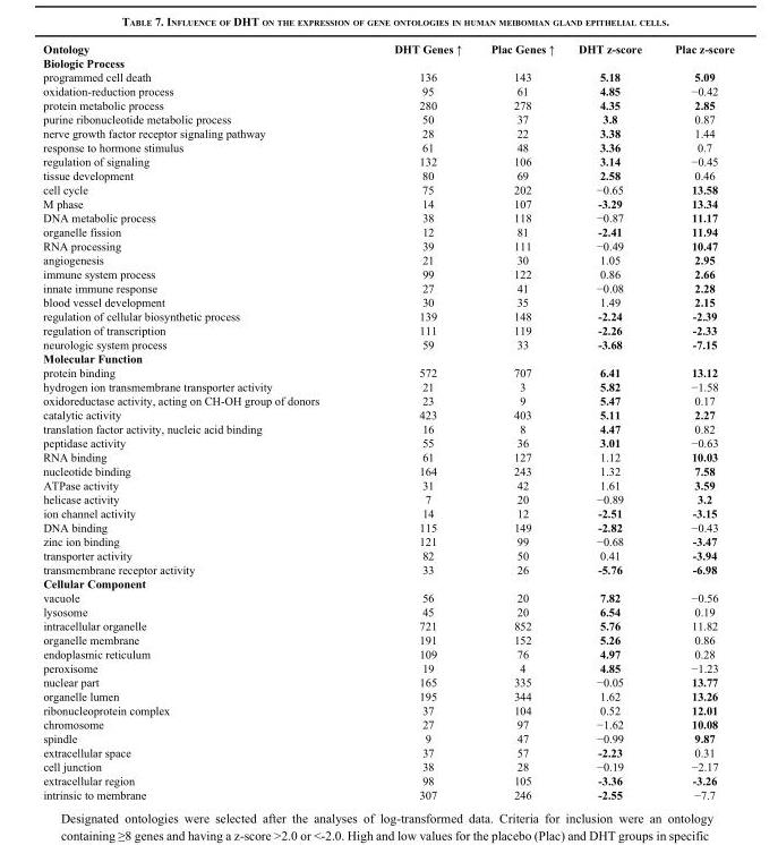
<table><thead><tr><td>Ontology</td><td>DHT Genes ↑</td><td>Plac Genes ↑</td><td>DHT z-score</td><td>Plac z-score</td></tr></thead><tbody><tr><td colspan="5">Biologic Process</td></tr><tr><td>programmed cell death</td><td>136</td><td>143</td><td>5.18</td><td>5.09</td></tr><tr><td>oxidation-reduction process</td><td>95</td><td>61</td><td>4.85</td><td>−0.42</td></tr><tr><td>protein metabolic process</td><td>280</td><td>278</td><td>4.35</td><td>2.85</td></tr><tr><td>purine ribonucleotide metabolic process</td><td>50</td><td>37</td><td>3.8</td><td>0.87</td></tr><tr><td>nerve growth factor receptor signaling pathway</td><td>28</td><td>22</td><td>3.38</td><td>1.44</td></tr><tr><td>response to hormone stimulus</td><td>61</td><td>48</td><td>3.36</td><td>0.7</td></tr><tr><td>regulation of signaling</td><td>132</td><td>106</td><td>3.14</td><td>−0.45</td></tr><tr><td>tissue development</td><td>80</td><td>69</td><td>2.58</td><td>0.46</td></tr><tr><td>cell cycle</td><td>75</td><td>202</td><td>−0.65</td><td>13.58</td></tr><tr><td>M phase</td><td>14</td><td>107</td><td>-3.29</td><td>13.34</td></tr><tr><td>DNA metabolic process</td><td>38</td><td>118</td><td>−0.87</td><td>11.17</td></tr><tr><td>organelle fission</td><td>12</td><td>81</td><td>-2.41</td><td>11.94</td></tr><tr><td>RNA processing</td><td>39</td><td>111</td><td>−0.49</td><td>10.47</td></tr><tr><td>angiogenesis</td><td>21</td><td>30</td><td>1.05</td><td>2.95</td></tr><tr><td>immune system process</td><td>99</td><td>122</td><td>0.86</td><td>2.66</td></tr><tr><td>innate immune response</td><td>27</td><td>41</td><td>−0.08</td><td>2.28</td></tr><tr><td>blood vessel development</td><td>30</td><td>35</td><td>1.49</td><td>2.15</td></tr><tr><td>regulation of cellular biosynthetic process</td><td>139</td><td>148</td><td>-2.24</td><td>-2.39</td></tr><tr><td>regulation of transcription</td><td>111</td><td>119</td><td>-2.26</td><td>-2.33</td></tr><tr><td>neurologic system process</td><td>59</td><td>33</td><td>-3.68</td><td>-7.15</td></tr><tr><td colspan="5">Molecular Function</td></tr><tr><td>protein binding</td><td>572</td><td>707</td><td>6.41</td><td>13.12</td></tr><tr><td>hydrogen ion transmembrane transporter activity</td><td>21</td><td>3</td><td>5.82</td><td>−1.58</td></tr><tr><td>oxidoreductase activity, acting on CH-OH group of donors</td><td>23</td><td>9</td><td>5.47</td><td>0.17</td></tr><tr><td>catalytic activity</td><td>423</td><td>403</td><td>5.11</td><td>2.27</td></tr><tr><td>translation factor activity, nucleic acid binding</td><td>16</td><td>8</td><td>4.47</td><td>0.82</td></tr><tr><td>peptidase activity</td><td>55</td><td>36</td><td>3.01</td><td>−0.63</td></tr><tr><td>RNA binding</td><td>61</td><td>127</td><td>1.12</td><td>10.03</td></tr><tr><td>nucleotide binding</td><td>164</td><td>243</td><td>1.32</td><td>7.58</td></tr><tr><td>ATPase activity</td><td>31</td><td>42</td><td>1.61</td><td>3.59</td></tr><tr><td>helicase activity</td><td>7</td><td>20</td><td>−0.89</td><td>3.2</td></tr><tr><td>ion channel activity</td><td>14</td><td>12</td><td>-2.51</td><td>-3.15</td></tr><tr><td>DNA binding</td><td>115</td><td>149</td><td>-2.82</td><td>−0.43</td></tr><tr><td>zinc ion binding</td><td>121</td><td>99</td><td>−0.68</td><td>-3.47</td></tr><tr><td>transporter activity</td><td>82</td><td>50</td><td>0.41</td><td>-3.94</td></tr><tr><td>transmembrane receptor activity</td><td>33</td><td>26</td><td>-5.76</td><td>-6.98</td></tr><tr><td colspan="5">Cellular Component</td></tr><tr><td>vacuole</td><td>56</td><td>20</td><td>7.82</td><td>−0.56</td></tr><tr><td>lysosome</td><td>45</td><td>20</td><td>6.54</td><td>0.19</td></tr><tr><td>intracellular organelle</td><td>721</td><td>852</td><td>5.76</td><td>11.82</td></tr><tr><td>organelle membrane</td><td>191</td><td>152</td><td>5.26</td><td>0.86</td></tr><tr><td>endoplasmic reticulum</td><td>109</td><td>76</td><td>4.97</td><td>0.28</td></tr><tr><td>peroxisome</td><td>19</td><td>4</td><td>4.85</td><td>−1.23</td></tr><tr><td>nuclear part</td><td>165</td><td>335</td><td>−0.05</td><td>13.77</td></tr><tr><td>organelle lumen</td><td>195</td><td>344</td><td>1.62</td><td>13.26</td></tr><tr><td>ribonucleoprotein complex</td><td>37</td><td>104</td><td>0.52</td><td>12.01</td></tr><tr><td>chromosome</td><td>27</td><td>97</td><td>−1.62</td><td>10.08</td></tr><tr><td>spindle</td><td>9</td><td>47</td><td>−0.99</td><td>9.87</td></tr><tr><td>extracellular space</td><td>37</td><td>57</td><td>-2.23</td><td>0.31</td></tr><tr><td>cell junction</td><td>38</td><td>28</td><td>−0.19</td><td>−2.17</td></tr><tr><td>extracellular region</td><td>98</td><td>105</td><td>-3.36</td><td>-3.26</td></tr><tr><td>intrinsic to membrane</td><td>307</td><td>246</td><td>-2.55</td><td>−7.7</td></tr></tbody></table>